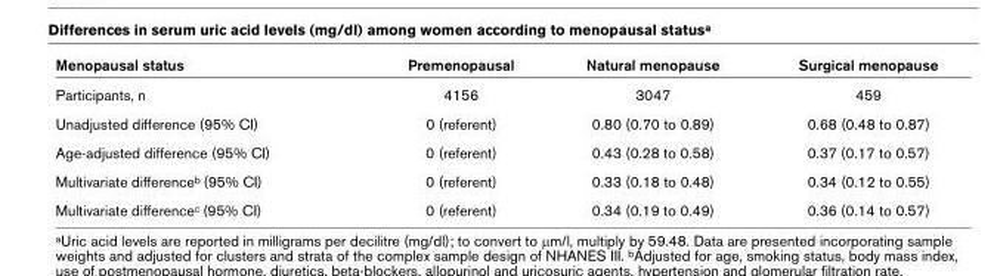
<table><thead><tr><td>Menopausal status</td><td>Premenopausal</td><td>Natural menopause</td><td>Surgical menopause</td></tr></thead><tbody><tr><td>Participants, n</td><td>4156</td><td>3047</td><td>459</td></tr><tr><td>Unadjusted difference (95% CI)</td><td>0 (referent)</td><td>0.80 (0.70 to 0.89)</td><td>0.68 (0.48 to 0.87)</td></tr><tr><td>Age-adjusted difference (95% CI)</td><td>0 (referent)</td><td>0.43 (0.28 to 0.58)</td><td>0.37 (0.17 to 0.57)</td></tr><tr><td>Multivariate difference<sup>b</sup> (95% CI)</td><td>0 (referent)</td><td>0.33 (0.18 to 0.48)</td><td>0.34 (0.12 to 0.55)</td></tr><tr><td>Multivariate difference<sup>c</sup> (95% CI)</td><td>0 (referent)</td><td>0.34 (0.19 to 0.49)</td><td>0.36 (0.14 to 0.57)</td></tr></tbody></table>